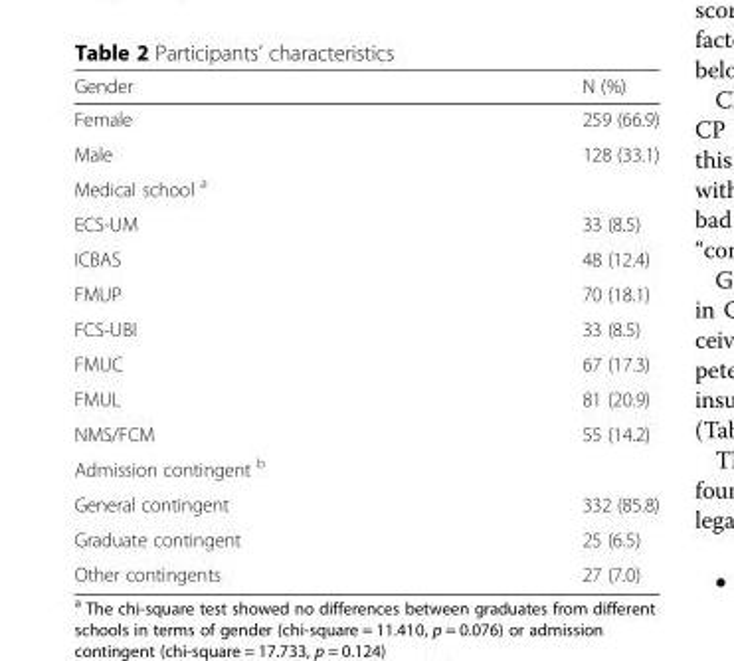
<table><thead><tr><td>Gender</td><td>N (%)</td></tr></thead><tbody><tr><td>Female</td><td>259 (66.9)</td></tr><tr><td>Male</td><td>128 (33.1)</td></tr><tr><td colspan="2">Medical school <sup>a</sup></td></tr><tr><td>ECS-UM</td><td>33 (8.5)</td></tr><tr><td>ICBAS</td><td>48 (12.4)</td></tr><tr><td>FMUP</td><td>70 (18.1)</td></tr><tr><td>FCS-UBI</td><td>33 (8.5)</td></tr><tr><td>FMUC</td><td>67 (17.3)</td></tr><tr><td>FMUL</td><td>81 (20.9)</td></tr><tr><td>NMS/FCM</td><td>55 (14.2)</td></tr><tr><td colspan="2">Admission contingent <sup>b</sup></td></tr><tr><td>General contingent</td><td>332 (85.8)</td></tr><tr><td>Graduate contingent</td><td>25 (6.5)</td></tr><tr><td>Other contingents</td><td>27 (7.0)</td></tr></tbody></table>